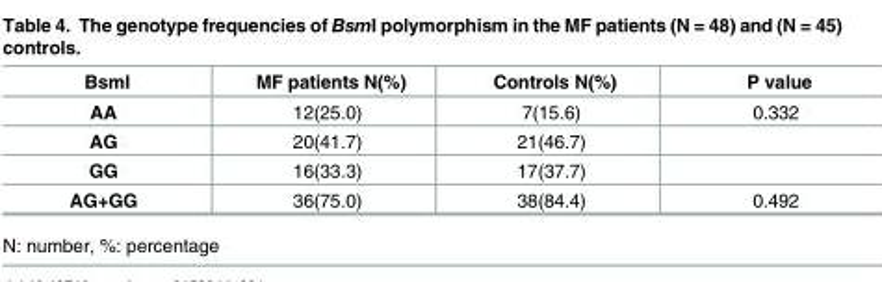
<table><thead><tr><td>BsmI</td><td>MF patients N(%)</td><td>Controls N(%)</td><td>P value</td></tr></thead><tbody><tr><td>AA</td><td>12(25.0)</td><td>7(15.6)</td><td>0.332</td></tr><tr><td>AG</td><td>20(41.7)</td><td>21(46.7)</td><td></td></tr><tr><td>GG</td><td>16(33.3)</td><td>17(37.7)</td><td></td></tr><tr><td>AG+GG</td><td>36(75.0)</td><td>38(84.4)</td><td>0.492</td></tr></tbody></table>